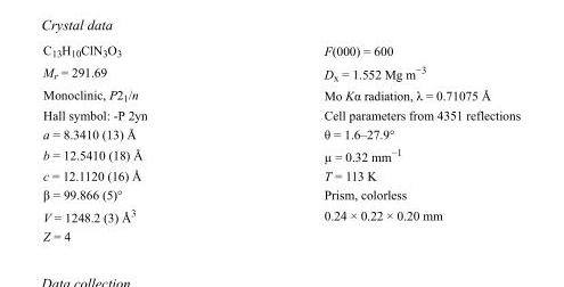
<table><tbody><tr><td>C<sub>13</sub>H<sub>10</sub>ClN<sub>3</sub>O<sub>3</sub></td><td>F(000) = 600</td></tr><tr><td>M<sub>r</sub> = 291.69</td><td>D<sub>x</sub> = 1.552 Mg m<sup>−3</sup></td></tr><tr><td>Monoclinic, P2<sub>1</sub>/n</td><td>Mo Kα radiation, λ = 0.71075 Å</td></tr><tr><td>Hall symbol: -P 2yn</td><td>Cell parameters from 4351 reflections</td></tr><tr><td>a = 8.3410 (13) Å</td><td>θ = 1.6–27.9°</td></tr><tr><td>b = 12.5410 (18) Å</td><td>µ = 0.32 mm<sup>−1</sup></td></tr><tr><td>c = 12.1120 (16) Å</td><td>T = 113 K</td></tr><tr><td>β = 99.866 (5)°</td><td>Prism, colorless</td></tr><tr><td>V = 1248.2 (3) Å<sup>3</sup></td><td>0.24 × 0.22 × 0.20 mm</td></tr><tr><td>Z = 4</td><td></td></tr></tbody></table>